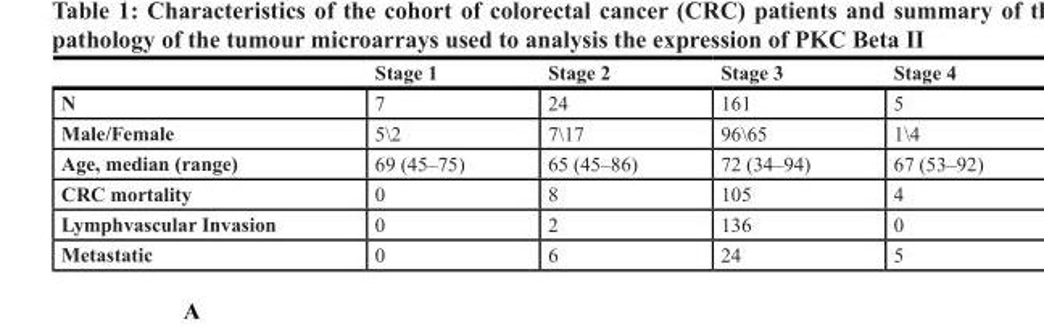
<table><thead><tr><td></td><td>Stage 1</td><td>Stage 2</td><td>Stage 3</td><td>Stage 4</td></tr></thead><tbody><tr><td>N</td><td>7</td><td>24</td><td>161</td><td>5</td></tr><tr><td>Male/Female</td><td>5\2</td><td>7\17</td><td>96\65</td><td>1\4</td></tr><tr><td>Age, median (range)</td><td>69 (45–75)</td><td>65 (45–86)</td><td>72 (34–94)</td><td>67 (53–92)</td></tr><tr><td>CRC mortality</td><td>0</td><td>8</td><td>105</td><td>4</td></tr><tr><td>Lymphvascular Invasion</td><td>0</td><td>2</td><td>136</td><td>0</td></tr><tr><td>Metastatic</td><td>0</td><td>6</td><td>24</td><td>5</td></tr></tbody></table>